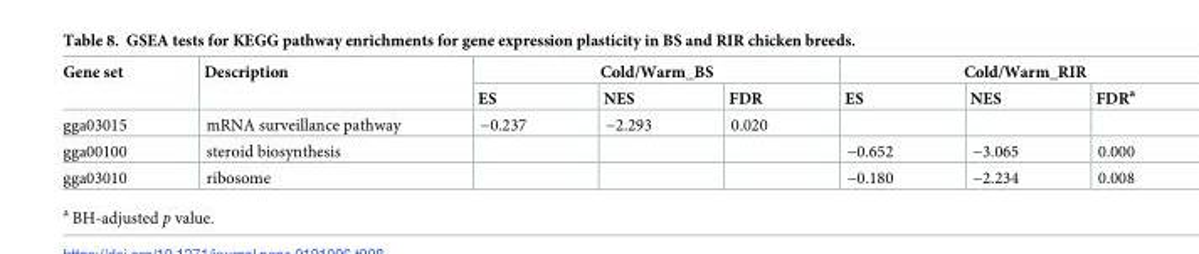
<table><thead><tr><td rowspan="2">Gene set</td><td rowspan="2">Description</td><td colspan="3">Cold/Warm_BS</td><td colspan="3">Cold/Warm_RIR</td></tr><tr><td>ES</td><td>NES</td><td>FDR</td><td>ES</td><td>NES</td><td>FDR<sup>a</sup></td></tr></thead><tbody><tr><td>gga03015</td><td>mRNA surveillance pathway</td><td>−0.237</td><td>−2.293</td><td>0.020</td><td></td><td></td><td></td></tr><tr><td>gga00100</td><td>steroid biosynthesis</td><td></td><td></td><td></td><td>−0.652</td><td>−3.065</td><td>0.000</td></tr><tr><td>gga03010</td><td>ribosome</td><td></td><td></td><td></td><td>−0.180</td><td>−2.234</td><td>0.008</td></tr></tbody></table>